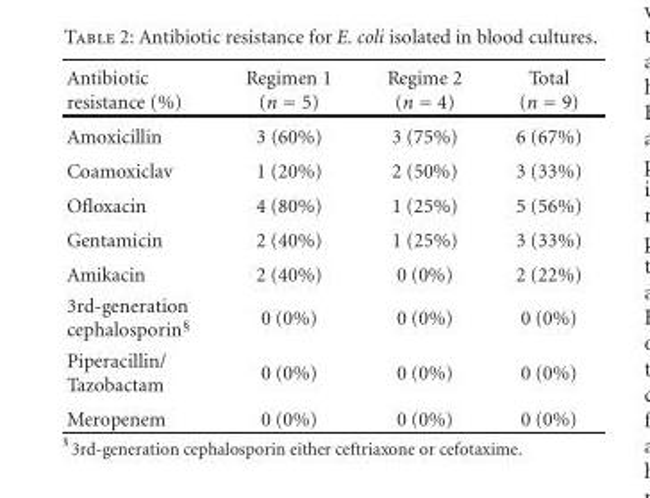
<table><thead><tr><td>Antibiotic resistance (%)</td><td>Regimen 1 (n = 5)</td><td>Regime 2 (n = 4)</td><td>Total (n = 9)</td></tr></thead><tbody><tr><td>Amoxicillin</td><td>3 (60%)</td><td>3 (75%)</td><td>6 (67%)</td></tr><tr><td>Coamoxiclav</td><td>1 (20%)</td><td>2 (50%)</td><td>3 (33%)</td></tr><tr><td>Ofloxacin</td><td>4 (80%)</td><td>1 (25%)</td><td>5 (56%)</td></tr><tr><td>Gentamicin</td><td>2 (40%)</td><td>1 (25%)</td><td>3 (33%)</td></tr><tr><td>Amikacin</td><td>2 (40%)</td><td>0 (0%)</td><td>2 (22%)</td></tr><tr><td>3rd-generation cephalosporin<sup>§</sup></td><td>0 (0%)</td><td>0 (0%)</td><td>0 (0%)</td></tr><tr><td>Piperacillin/ Tazobactam</td><td>0 (0%)</td><td>0 (0%)</td><td>0 (0%)</td></tr><tr><td>Meropenem</td><td>0 (0%)</td><td>0 (0%)</td><td>0 (0%)</td></tr></tbody></table>